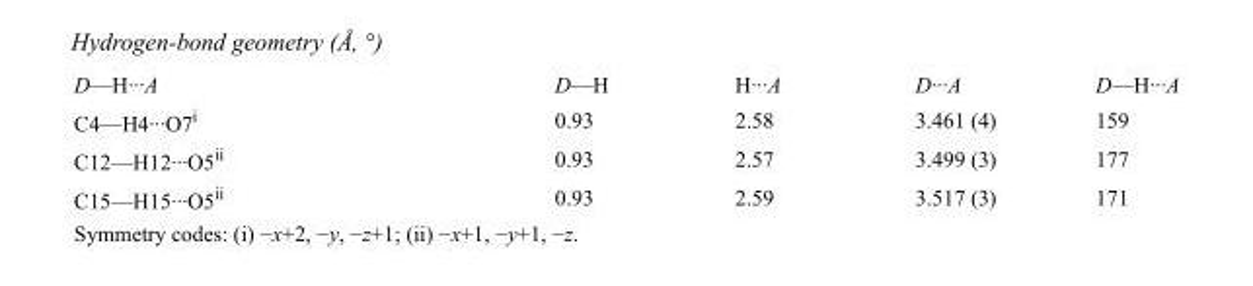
<table><tbody><tr><td>D—H···A</td><td>D—H</td><td>H···A</td><td>D···A</td><td>D—H···A</td></tr><tr><td>C4—H4···O7<sup>i</sup></td><td>0.93</td><td>2.58</td><td>3.461 (4)</td><td>159</td></tr><tr><td>C12—H12···O5<sup>ii</sup></td><td>0.93</td><td>2.57</td><td>3.499 (3)</td><td>177</td></tr><tr><td>C15—H15···O5<sup>ii</sup></td><td>0.93</td><td>2.59</td><td>3.517 (3)</td><td>171</td></tr></tbody></table>